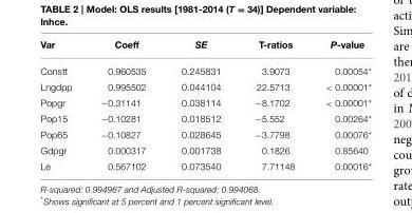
<table><thead><tr><td>Var</td><td>Coeff</td><td>SE</td><td>T-ratios</td><td>P-value</td></tr></thead><tbody><tr><td>Constt</td><td>0.960535</td><td>0.245831</td><td>3.9073</td><td>0.00054*</td></tr><tr><td>Lngdpp</td><td>0.995502</td><td>0.044104</td><td>22.5713</td><td>&lt; 0.00001*</td></tr><tr><td>Popgr</td><td>−0.31141</td><td>0.038114</td><td>−8.1702</td><td>&lt; 0.00001*</td></tr><tr><td>Pop15</td><td>−0.10281</td><td>0.018512</td><td>−5.552</td><td>0.00264*</td></tr><tr><td>Pop65</td><td>−0.10827</td><td>0.028645</td><td>−3.7798</td><td>0.00076*</td></tr><tr><td>Gdpgr</td><td>0.000317</td><td>0.001738</td><td>0.1826</td><td>0.85640</td></tr><tr><td>Le</td><td>0.567102</td><td>0.073540</td><td>7.71148</td><td>0.00016*</td></tr></tbody></table>